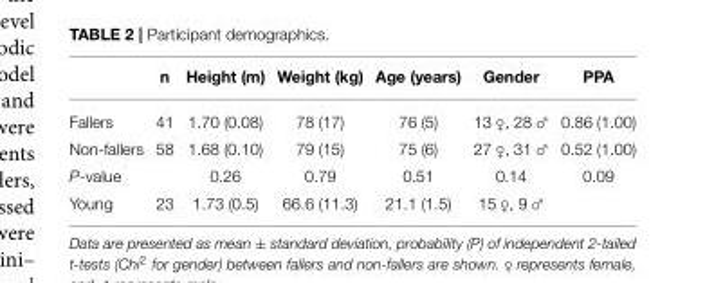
<table><thead><tr><td></td><td>n</td><td>Height (m)</td><td>Weight (kg)</td><td>Age (years)</td><td>Gender</td><td>PPA</td></tr></thead><tbody><tr><td>Fallers</td><td>41</td><td>1.70 (0.08)</td><td>78 (17)</td><td>76 (5)</td><td>13 ♀, 28 ♂</td><td>0.86 (1.00)</td></tr><tr><td>Non-fallers</td><td>58</td><td>1.68 (0.10)</td><td>79 (15)</td><td>75 (6)</td><td>27 ♀, 31 ♂</td><td>0.52 (1.00)</td></tr><tr><td>P-value</td><td></td><td>0.26</td><td>0.79</td><td>0.51</td><td>0.14</td><td>0.09</td></tr><tr><td>Young</td><td>23</td><td>1.73 (0.5)</td><td>66.6 (11.3)</td><td>21.1 (1.5)</td><td>15 ♀, 9 ♂</td><td></td></tr></tbody></table>